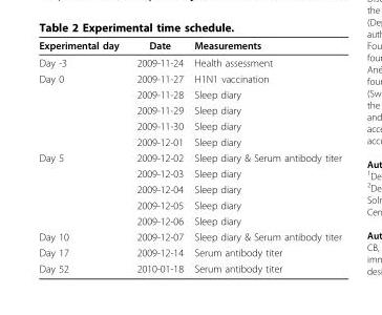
<table><thead><tr><td>Experimental day</td><td>Date</td><td>Measurements</td></tr></thead><tbody><tr><td>Day -3</td><td>2009-11-24</td><td>Health assessment</td></tr><tr><td rowspan="5">Day 0</td><td>2009-11-27</td><td>H1N1 vaccination</td></tr><tr><td>2009-11-28</td><td>Sleep diary</td></tr><tr><td>2009-11-29</td><td>Sleep diary</td></tr><tr><td>2009-11-30</td><td>Sleep diary</td></tr><tr><td>2009-12-01</td><td>Sleep diary</td></tr><tr><td rowspan="5">Day 5</td><td>2009-12-02</td><td>Sleep diary &amp; Serum antibody titer</td></tr><tr><td>2009-12-03</td><td>Sleep diary</td></tr><tr><td>2009-12-04</td><td>Sleep diary</td></tr><tr><td>2009-12-05</td><td>Sleep diary</td></tr><tr><td>2009-12-06</td><td>Sleep diary</td></tr><tr><td>Day 10</td><td>2009-12-07</td><td>Sleep diary &amp; Serum antibody titer</td></tr><tr><td>Day 17</td><td>2009-12-14</td><td>Serum antibody titer</td></tr><tr><td>Day 52</td><td>2010-01-18</td><td>Serum antibody titer</td></tr></tbody></table>